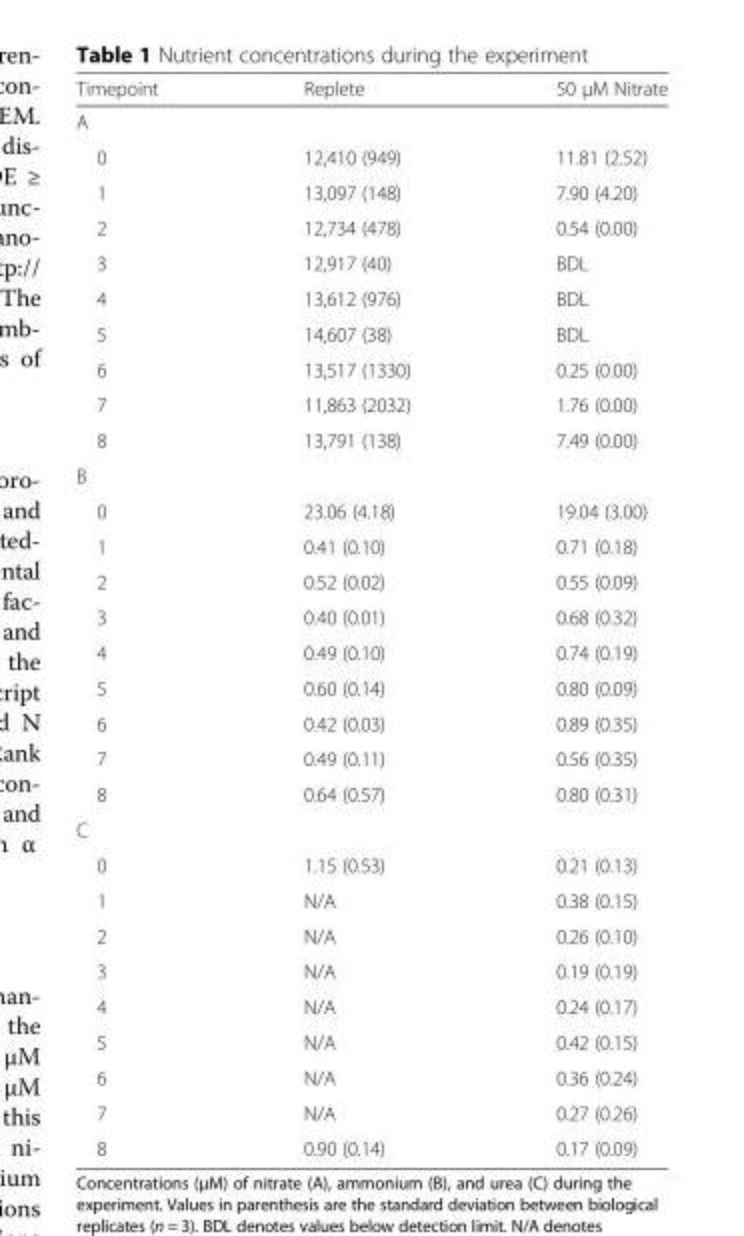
<table><thead><tr><td>Timepoint</td><td>Replete</td><td>50 μM Nitrate</td></tr></thead><tbody><tr><td colspan="3">A</td></tr><tr><td>0</td><td>12,410 (949)</td><td>11.81 (2.52)</td></tr><tr><td>1</td><td>13,097 (148)</td><td>7.90 (4.20)</td></tr><tr><td>2</td><td>12,734 (478)</td><td>0.54 (0.00)</td></tr><tr><td>3</td><td>12,917 (40)</td><td>BDL</td></tr><tr><td>4</td><td>13,612 (976)</td><td>BDL</td></tr><tr><td>5</td><td>14,607 (38)</td><td>BDL</td></tr><tr><td>6</td><td>13,517 (1330)</td><td>0.25 (0.00)</td></tr><tr><td>7</td><td>11,863 (2032)</td><td>1.76 (0.00)</td></tr><tr><td>8</td><td>13,791 (138)</td><td>7.49 (0.00)</td></tr><tr><td colspan="3">B</td></tr><tr><td>0</td><td>23.06 (4.18)</td><td>19.04 (3.00)</td></tr><tr><td>1</td><td>0.41 (0.10)</td><td>0.71 (0.18)</td></tr><tr><td>2</td><td>0.52 (0.02)</td><td>0.55 (0.09)</td></tr><tr><td>3</td><td>0.40 (0.01)</td><td>0.68 (0.32)</td></tr><tr><td>4</td><td>0.49 (0.10)</td><td>0.74 (0.19)</td></tr><tr><td>5</td><td>0.60 (0.14)</td><td>0.80 (0.09)</td></tr><tr><td>6</td><td>0.42 (0.03)</td><td>0.89 (0.35)</td></tr><tr><td>7</td><td>0.49 (0.11)</td><td>0.56 (0.35)</td></tr><tr><td>8</td><td>0.64 (0.57)</td><td>0.80 (0.31)</td></tr><tr><td colspan="3">C</td></tr><tr><td>0</td><td>1.15 (0.53)</td><td>0.21 (0.13)</td></tr><tr><td>1</td><td>N/A</td><td>0.38 (0.15)</td></tr><tr><td>2</td><td>N/A</td><td>0.26 (0.10)</td></tr><tr><td>3</td><td>N/A</td><td>0.19 (0.19)</td></tr><tr><td>4</td><td>N/A</td><td>0.24 (0.17)</td></tr><tr><td>5</td><td>N/A</td><td>0.42 (0.15)</td></tr><tr><td>6</td><td>N/A</td><td>0.36 (0.24)</td></tr><tr><td>7</td><td>N/A</td><td>0.27 (0.26)</td></tr><tr><td>8</td><td>0.90 (0.14)</td><td>0.17 (0.09)</td></tr></tbody></table>